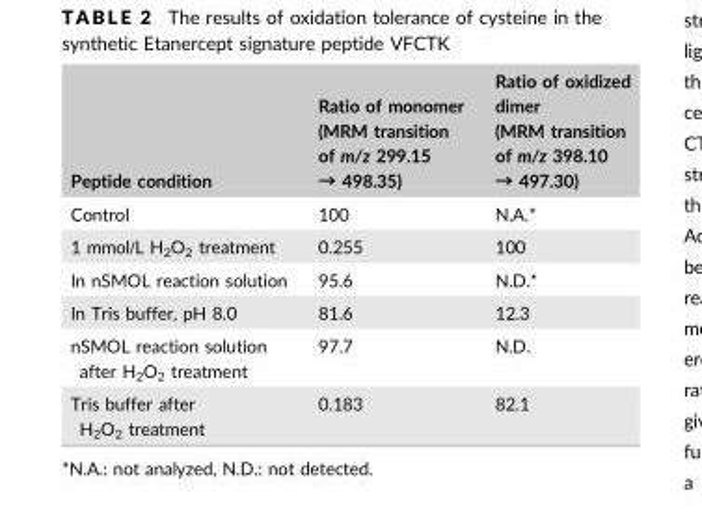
<table><thead><tr><td>Peptide condition</td><td>Ratio of monomer (MRM transition of m/z 299.15 → 498.35)</td><td>Ratio of oxidized dimer (MRM transition of m/z 398.10 → 497.30)</td></tr></thead><tbody><tr><td>Control</td><td>100</td><td>N.A.*</td></tr><tr><td>1 mmol/L H<sub>2</sub>O<sub>2</sub> treatment</td><td>0.255</td><td>100</td></tr><tr><td>In nSMOL reaction solution</td><td>95.6</td><td>N.D.*</td></tr><tr><td>In Tris buffer, pH 8.0</td><td>81.6</td><td>12.3</td></tr><tr><td>nSMOL reaction solution after H<sub>2</sub>O<sub>2</sub> treatment</td><td>97.7</td><td>N.D.</td></tr><tr><td>Tris buffer after H<sub>2</sub>O<sub>2</sub> treatment</td><td>0.183</td><td>82.1</td></tr></tbody></table>